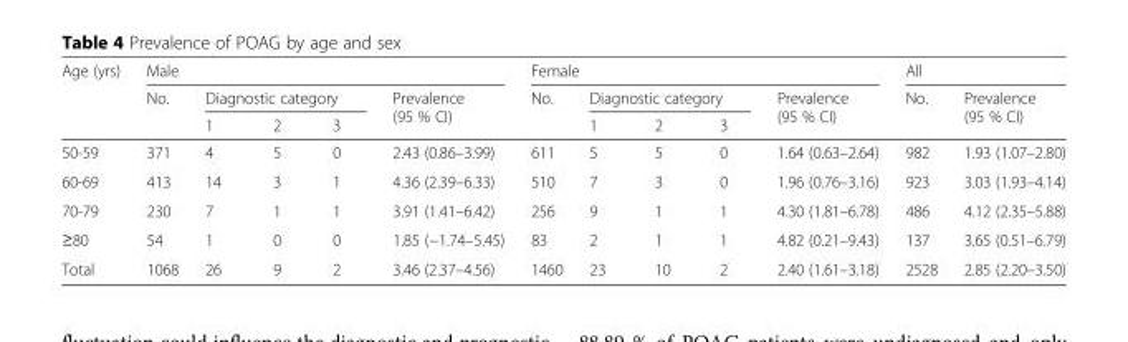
<table><thead><tr><td rowspan="3">Age (yrs)</td><td colspan="5">Male</td><td colspan="5">Female</td><td colspan="2">All</td></tr><tr><td rowspan="2">No.</td><td colspan="3">Diagnostic category</td><td rowspan="2">Prevalence (95 % CI)</td><td rowspan="2">No.</td><td colspan="3">Diagnostic category</td><td rowspan="2">Prevalence (95 % CI)</td><td rowspan="2">No.</td><td rowspan="2">Prevalence (95 % CI)</td></tr><tr><td>1</td><td>2</td><td>3</td><td>1</td><td>2</td><td>3</td></tr></thead><tbody><tr><td>50-59</td><td>371</td><td>4</td><td>5</td><td>0</td><td>2.43 (0.86–3.99)</td><td>611</td><td>5</td><td>5</td><td>0</td><td>1.64 (0.63–2.64)</td><td>982</td><td>1.93 (1.07–2.80)</td></tr><tr><td>60-69</td><td>413</td><td>14</td><td>3</td><td>1</td><td>4.36 (2.39–6.33)</td><td>510</td><td>7</td><td>3</td><td>0</td><td>1.96 (0.76–3.16)</td><td>923</td><td>3.03 (1.93–4.14)</td></tr><tr><td>70-79</td><td>230</td><td>7</td><td>1</td><td>1</td><td>3.91 (1.41–6.42)</td><td>256</td><td>9</td><td>1</td><td>1</td><td>4.30 (1.81–6.78)</td><td>486</td><td>4.12 (2.35–5.88)</td></tr><tr><td>≥80</td><td>54</td><td>1</td><td>0</td><td>0</td><td>1.85 (−1.74–5.45)</td><td>83</td><td>2</td><td>1</td><td>1</td><td>4.82 (0.21–9.43)</td><td>137</td><td>3.65 (0.51–6.79)</td></tr><tr><td>Total</td><td>1068</td><td>26</td><td>9</td><td>2</td><td>3.46 (2.37–4.56)</td><td>1460</td><td>23</td><td>10</td><td>2</td><td>2.40 (1.61–3.18)</td><td>2528</td><td>2.85 (2.20–3.50)</td></tr></tbody></table>